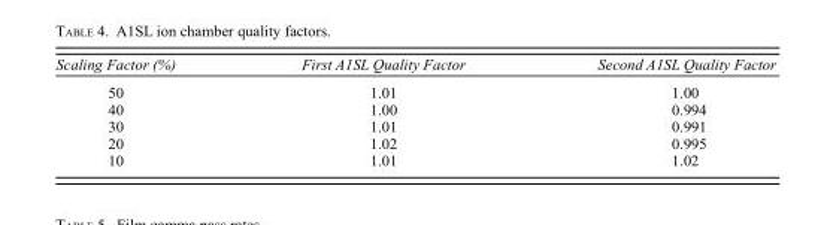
<table><thead><tr><td>Scaling Factor (%)</td><td>First A1SL Quality Factor</td><td>Second A1SL Quality Factor</td></tr></thead><tbody><tr><td>50</td><td>1.01</td><td>1.00</td></tr><tr><td>40</td><td>1.00</td><td>0.994</td></tr><tr><td>30</td><td>1.01</td><td>0.991</td></tr><tr><td>20</td><td>1.02</td><td>0.995</td></tr><tr><td>10</td><td>1.01</td><td>1.02</td></tr></tbody></table>